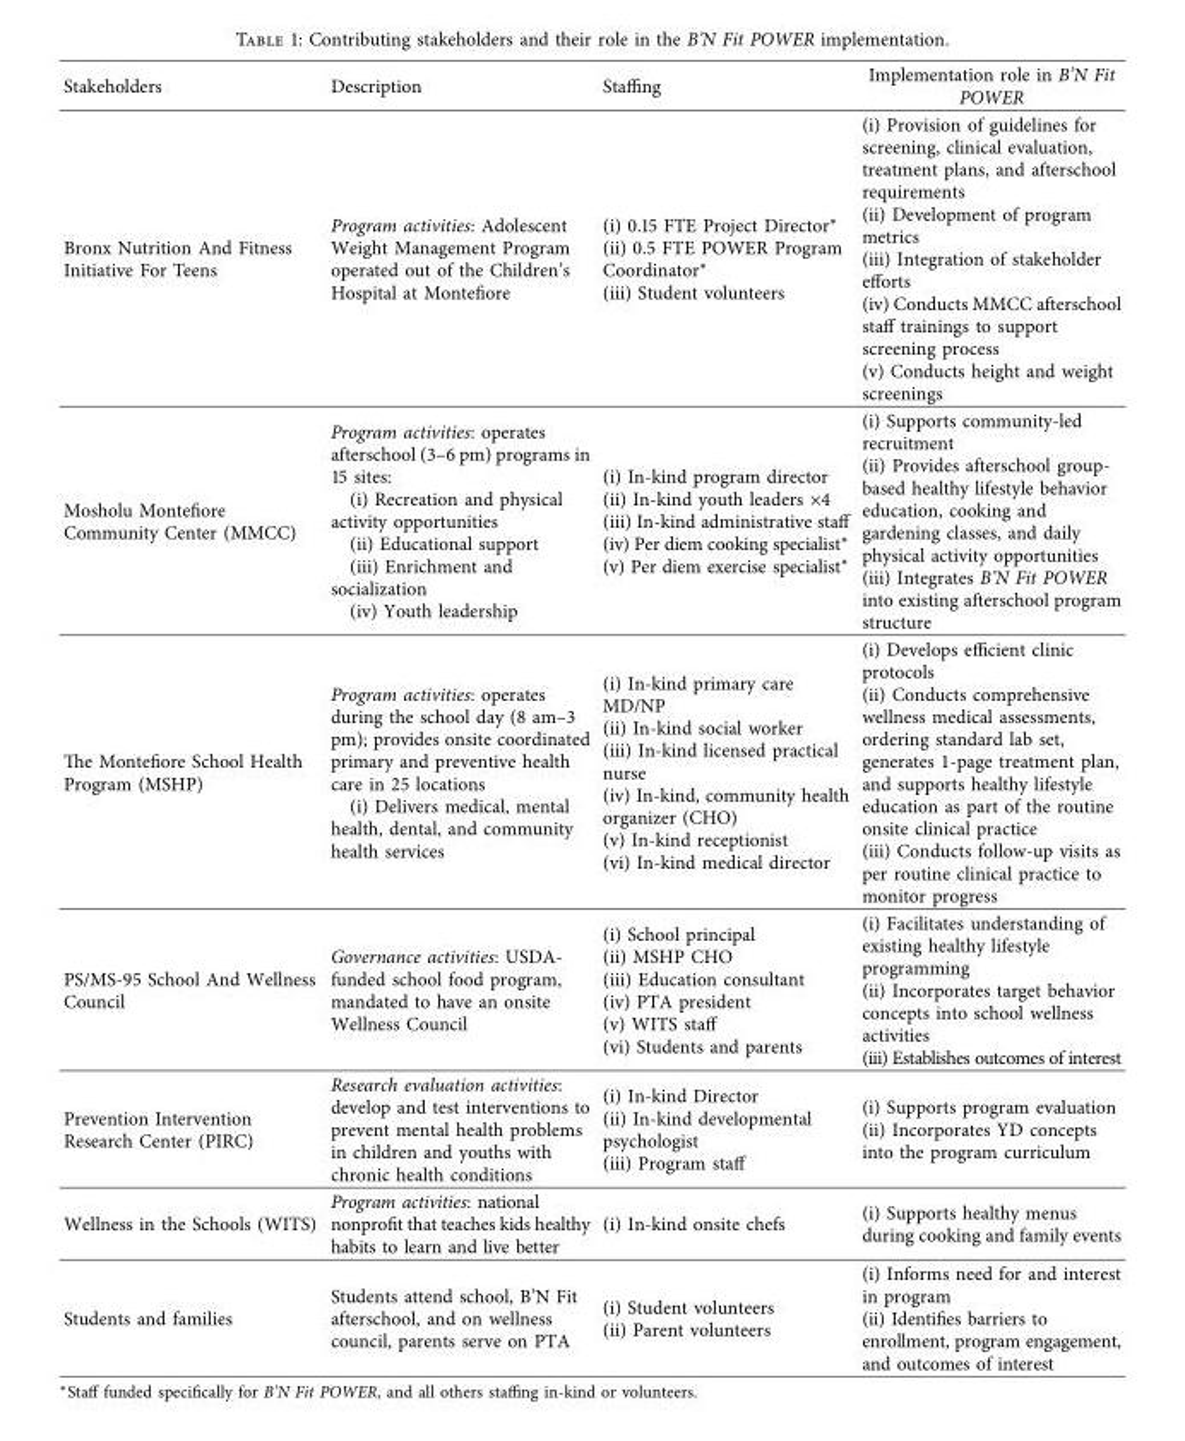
<table><thead><tr><td>Stakeholders</td><td>Description</td><td>Staffing</td><td>Implementation role in B’N Fit POWER</td></tr></thead><tbody><tr><td>Bronx Nutrition And Fitness Initiative For Teens</td><td>Program activities: Adolescent Weight Management Program operated out of the Children’s Hospital at Montefiore</td><td>(i) 0.15 FTE Project Director∗ (ii) 0.5 FTE POWER Program Coordinator∗ (iii) Student volunteers</td><td>(i) Provision of guidelines for screening, clinical evaluation, treatment plans, and afterschool requirements (ii) Development of program metrics (iii) Integration of stakeholder efforts (iv) Conducts MMCC afterschool staff trainings to support screening process (v) Conducts height and weight screenings</td></tr><tr><td>Mosholu Montefiore Community Center (MMCC)</td><td>Program activities: operates afterschool (3–6 pm) programs in 15 sites: (i) Recreation and physical activity opportunities (ii) Educational support (iii) Enrichment and socialization (iv) Youth leadership</td><td>(i) In-kind program director (ii) In-kind youth leaders ×4 (iii) In-kind administrative staff (iv) Per diem cooking specialist∗ (v) Per diem exercise specialist∗</td><td>(i) Supports community-led recruitment (ii) Provides afterschool group- based healthy lifestyle behavior education, cooking and gardening classes, and daily physical activity opportunities (iii) Integrates B’N Fit POWER into existing afterschool program structure</td></tr><tr><td>Te Montefiore School Health Program (MSHP)</td><td>Program activities: operates during the school day (8 am–3 pm); provides onsite coordinated primary and preventive health care in 25 locations (i) Delivers medical, mental health, dental, and community health services</td><td>(i) In-kind primary care MD/NP (ii) In-kind social worker (iii) In-kind licensed practical nurse (iv) In-kind, community health organizer (CHO) (v) In-kind receptionist (vi) In-kind medical director</td><td>(i) Develops efficient clinic protocols (ii) Conducts comprehensive wellness medical assessments, ordering standard lab set, generates 1-page treatment plan, and supports healthy lifestyle education as part of the routine onsite clinical practice (iii) Conducts follow-up visits as per routine clinical practice to monitor progress</td></tr><tr><td>PS/MS-95 School And Wellness Council</td><td>Governance activities: USDA- funded school food program, mandated to have an onsite Wellness Council</td><td>(i) School principal (ii) MSHP CHO (iii) Education consultant (iv) PTA president (v) WITS staff (vi) Students and parents</td><td>(i) Facilitates understanding of existing healthy lifestyle programming (ii) Incorporates target behavior concepts into school wellness activities (iii) Establishes outcomes of interest</td></tr><tr><td>Prevention Intervention Research Center (PIRC)</td><td>Research evaluation activities: develop and test interventions to prevent mental health problems in children and youths with chronic health conditions</td><td>(i) In-kind Director (ii) In-kind developmental psychologist (iii) Program staff</td><td>(i) Supports program evaluation (ii) Incorporates YD concepts into the program curriculum</td></tr><tr><td>Wellness in the Schools (WITS)</td><td>Program activities: national nonprofit that teaches kids healthy habits to learn and live better</td><td>(i) In-kind onsite chefs</td><td>(i) Supports healthy menus during cooking and family events</td></tr><tr><td>Students and families</td><td>Students attend school, B’N Fit afterschool, and on wellness council, parents serve on PTA</td><td>(i) Student volunteers (ii) Parent volunteers</td><td>(i) Informs need for and interest in program (ii) Identifies barriers to enrollment, program engagement, and outcomes of interest</td></tr></tbody></table>